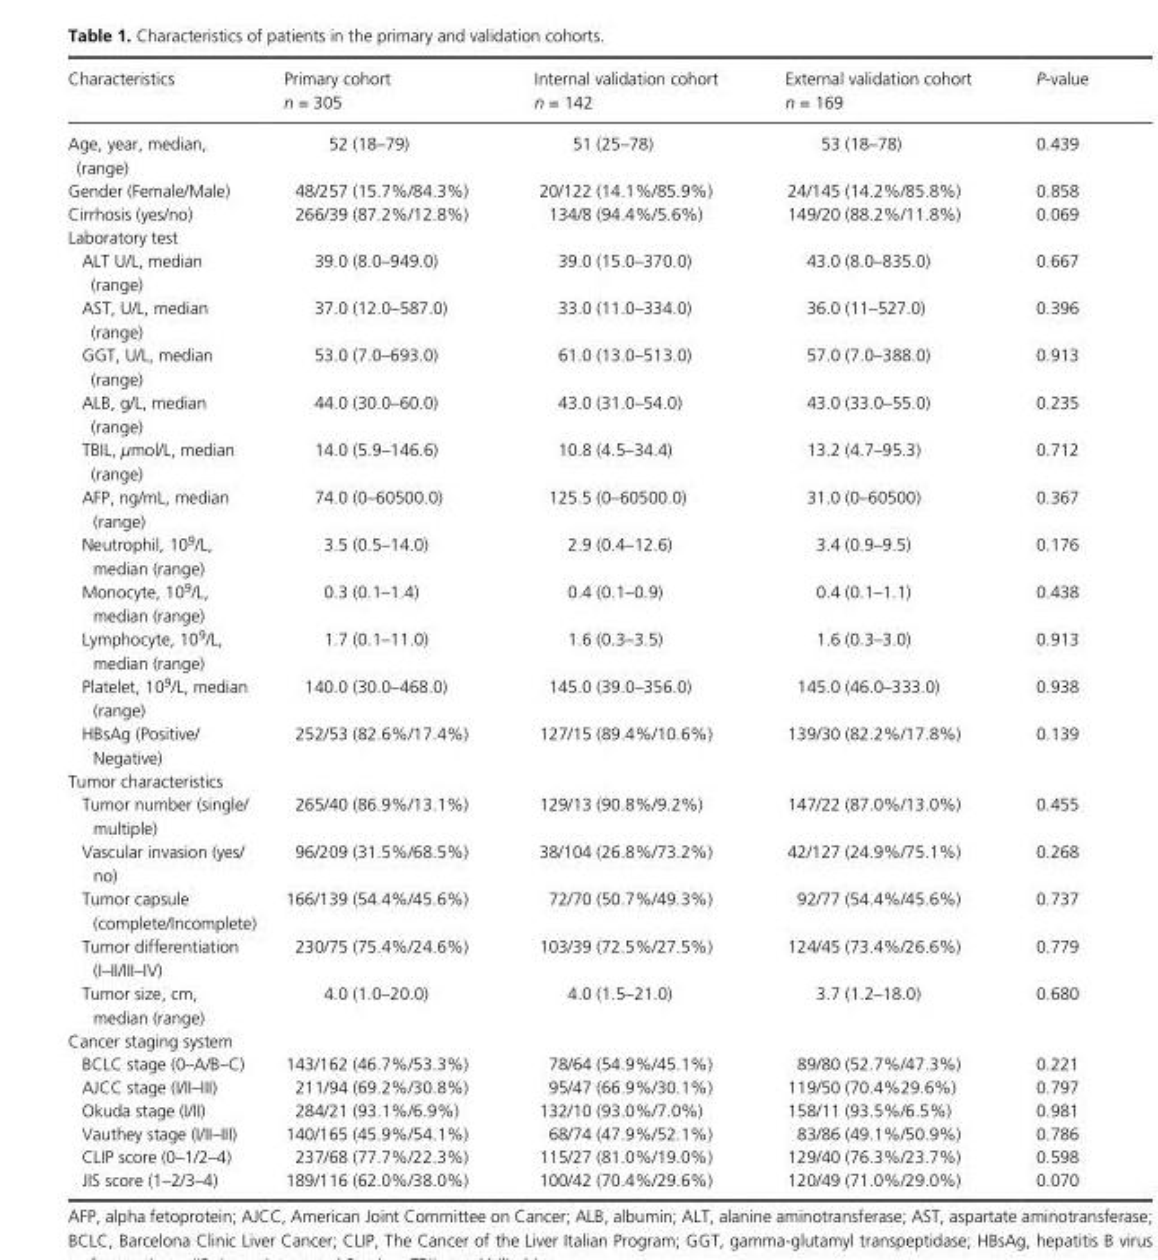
<table><thead><tr><td>Characteristics</td><td>Primary cohort n = 305</td><td>Internal validation cohort n = 142</td><td>External validation cohort n = 169</td><td>P- value</td></tr></thead><tbody><tr><td>Age, year, median, (range)</td><td>52 (18–79)</td><td>51 (25–78)</td><td>53 (18–78)</td><td>0.439</td></tr><tr><td>Gender (Female/Male)</td><td>48/257 (15.7%/84.3%)</td><td>20/122 (14.1%/85.9%)</td><td>24/145 (14.2%/85.8%)</td><td>0.858</td></tr><tr><td>Cirrhosis (yes/no)</td><td>266/39 (87.2%/12.8%)</td><td>134/8 (94.4%/5.6%)</td><td>149/20 (88.2%/11.8%)</td><td>0.069</td></tr><tr><td colspan="5">Laboratory test</td></tr><tr><td>ALT U/L, median (range)</td><td>39.0 (8.0–949.0)</td><td>39.0 (15.0–370.0)</td><td>43.0 (8.0–835.0)</td><td>0.667</td></tr><tr><td>AST, U/L, median (range)</td><td>37.0 (12.0–587.0)</td><td>33.0 (11.0–334.0)</td><td>36.0 (11–527.0)</td><td>0.396</td></tr><tr><td>GGT, U/L, median (range)</td><td>53.0 (7.0–693.0)</td><td>61.0 (13.0–513.0)</td><td>57.0 (7.0–388.0)</td><td>0.913</td></tr><tr><td>ALB, g/L, median (range)</td><td>44.0 (30.0–60.0)</td><td>43.0 (31.0–54.0)</td><td>43.0 (33.0–55.0)</td><td>0.235</td></tr><tr><td>TBIL, μmol/L, median (range)</td><td>14.0 (5.9–146.6)</td><td>10.8 (4.5–34.4)</td><td>13.2 (4.7–95.3)</td><td>0.712</td></tr><tr><td>AFP, ng/mL, median (range)</td><td>74.0 (0–60500.0)</td><td>125.5 (0–60500.0)</td><td>31.0 (0–60500)</td><td>0.367</td></tr><tr><td>Neutrophil, 10<sup>9</sup>/L, median (range)</td><td>3.5 (0.5–14.0)</td><td>2.9 (0.4–12.6)</td><td>3.4 (0.9–9.5)</td><td>0.176</td></tr><tr><td>Monocyte, 10<sup>9</sup>/L, median (range)</td><td>0.3 (0.1–1.4)</td><td>0.4 (0.1–0.9)</td><td>0.4 (0.1–1.1)</td><td>0.438</td></tr><tr><td>Lymphocyte, 10<sup>9</sup>/L, median (range)</td><td>1.7 (0.1–11.0)</td><td>1.6 (0.3–3.5)</td><td>1.6 (0.3–3.0)</td><td>0.913</td></tr><tr><td>Platelet, 10<sup>9</sup>/L, median (range)</td><td>140.0 (30.0–468.0)</td><td>145.0 (39.0–356.0)</td><td>145.0 (46.0–333.0)</td><td>0.938</td></tr><tr><td>HBsAg (Positive/ Negative)</td><td>252/53 (82.6%/17.4%)</td><td>127/15 (89.4%/10.6%)</td><td>139/30 (82.2%/17.8%)</td><td>0.139</td></tr><tr><td colspan="5">Tumor characteristics</td></tr><tr><td>Tumor number (single/ multiple)</td><td>265/40 (86.9%/13.1%)</td><td>129/13 (90.8%/9.2%)</td><td>147/22 (87.0%/13.0%)</td><td>0.455</td></tr><tr><td>Vascular invasion (yes/ no)</td><td>96/209 (31.5%/68.5%)</td><td>38/104 (26.8%/73.2%)</td><td>42/127 (24.9%/75.1%)</td><td>0.268</td></tr><tr><td>Tumor capsule (complete/Incomplete)</td><td>166/139 (54.4%/45.6%)</td><td>72/70 (50.7%/49.3%)</td><td>92/77 (54.4%/45.6%)</td><td>0.737</td></tr><tr><td>Tumor differentiation (I–II/III–IV)</td><td>230/75 (75.4%/24.6%)</td><td>103/39 (72.5%/27.5%)</td><td>124/45 (73.4%/26.6%)</td><td>0.779</td></tr><tr><td>Tumor size, cm, median (range)</td><td>4.0 (1.0–20.0)</td><td>4.0 (1.5–21.0)</td><td>3.7 (1.2–18.0)</td><td>0.680</td></tr><tr><td colspan="5">Cancer staging system</td></tr><tr><td>BCLC stage (0–A/B–C)</td><td>143/162 (46.7%/53.3%)</td><td>78/64 (54.9%/45.1%)</td><td>89/80 (52.7%/47.3%)</td><td>0.221</td></tr><tr><td>AJCC stage (I/II–III)</td><td>211/94 (69.2%/30.8%)</td><td>95/47 (66.9%/30.1%)</td><td>119/50 (70.4%29.6%)</td><td>0.797</td></tr><tr><td>Okuda stage (I/II)</td><td>284/21 (93.1%/6.9%)</td><td>132/10 (93.0%/7.0%)</td><td>158/11 (93.5%/6.5%)</td><td>0.981</td></tr><tr><td>Vauthey stage (I/II–III)</td><td>140/165 (45.9%/54.1%)</td><td>68/74 (47.9%/52.1%)</td><td>83/86 (49.1%/50.9%)</td><td>0.786</td></tr><tr><td>CLIP score (0–1/2–4)</td><td>237/68 (77.7%/22.3%)</td><td>115/27 (81.0%/19.0%)</td><td>129/40 (76.3%/23.7%)</td><td>0.598</td></tr><tr><td>JIS score (1–2/3–4)</td><td>189/116 (62.0%/38.0%)</td><td>100/42 (70.4%/29.6%)</td><td>120/49 (71.0%/29.0%)</td><td>0.070</td></tr></tbody></table>